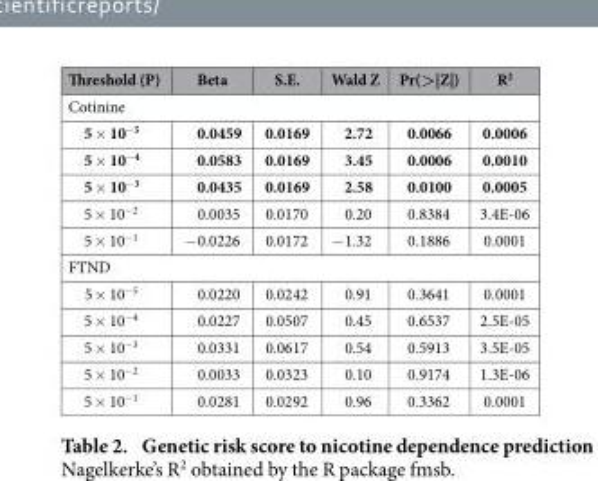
<table><thead><tr><td>Threshold (P)</td><td>Beta</td><td>S.E.</td><td>Wald Z</td><td>Pr(&gt;|Z|)</td><td>R<sup>2</sup></td></tr></thead><tbody><tr><td colspan="6">Cotinine</td></tr><tr><td>5 × 10<sup>−5</sup></td><td>0.0459</td><td>0.0169</td><td>2.72</td><td>0.0066</td><td>0.0006</td></tr><tr><td>5 × 10<sup>−4</sup></td><td>0.0583</td><td>0.0169</td><td>3.45</td><td>0.0006</td><td>0.0010</td></tr><tr><td>5 × 10<sup>−3</sup></td><td>0.0435</td><td>0.0169</td><td>2.58</td><td>0.0100</td><td>0.0005</td></tr><tr><td>5 × 10<sup>−2</sup></td><td>0.0035</td><td>0.0170</td><td>0.20</td><td>0.8384</td><td>3.4E-06</td></tr><tr><td>5 × 10<sup>−1</sup></td><td>− 0.0226</td><td>0.0172</td><td>− 1.32</td><td>0.1886</td><td>0.0001</td></tr><tr><td colspan="6">FTND</td></tr><tr><td>5 × 10<sup>−5</sup></td><td>0.0220</td><td>0.0242</td><td>0.91</td><td>0.3641</td><td>0.0001</td></tr><tr><td>5 × 10<sup>−4</sup></td><td>0.0227</td><td>0.0507</td><td>0.45</td><td>0.6537</td><td>2.5E-05</td></tr><tr><td>5 × 10<sup>−3</sup></td><td>0.0331</td><td>0.0617</td><td>0.54</td><td>0.5913</td><td>3.5E-05</td></tr><tr><td>5 × 10<sup>−2</sup></td><td>0.0033</td><td>0.0323</td><td>0.10</td><td>0.9174</td><td>1.3E-06</td></tr><tr><td>5 × 10<sup>−1</sup></td><td>0.0281</td><td>0.0292</td><td>0.96</td><td>0.3362</td><td>0.0001</td></tr></tbody></table>